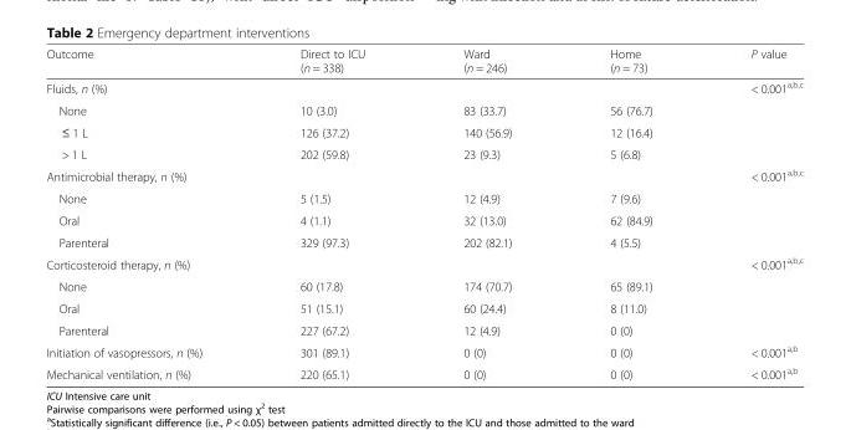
<table><thead><tr><td>Outcome</td><td>Direct to ICU (n = 338)</td><td>Ward (n = 246)</td><td>Home (n = 73)</td><td>P value</td></tr></thead><tbody><tr><td>Fluids, n (%)</td><td></td><td></td><td></td><td>&lt; 0.001<sup>a,b,c</sup></td></tr><tr><td>None</td><td>10 (3.0)</td><td>83 (33.7)</td><td>56 (76.7)</td><td></td></tr><tr><td>≤ 1 L</td><td>126 (37.2)</td><td>140 (56.9)</td><td>12 (16.4)</td><td></td></tr><tr><td>&gt; 1 L</td><td>202 (59.8)</td><td>23 (9.3)</td><td>5 (6.8)</td><td></td></tr><tr><td colspan="4">Antimicrobial therapy, n (%)</td><td>&lt; 0.001<sup>a,b,c</sup></td></tr><tr><td>None</td><td>5 (1.5)</td><td>12 (4.9)</td><td>7 (9.6)</td><td></td></tr><tr><td>Oral</td><td>4 (1.1)</td><td>32 (13.0)</td><td>62 (84.9)</td><td></td></tr><tr><td>Parenteral</td><td>329 (97.3)</td><td>202 (82.1)</td><td>4 (5.5)</td><td></td></tr><tr><td colspan="4">Corticosteroid therapy, n (%)</td><td>&lt; 0.001<sup>a,b,c</sup></td></tr><tr><td>None</td><td>60 (17.8)</td><td>174 (70.7)</td><td>65 (89.1)</td><td></td></tr><tr><td>Oral</td><td>51 (15.1)</td><td>60 (24.4)</td><td>8 (11.0)</td><td></td></tr><tr><td>Parenteral</td><td>227 (67.2)</td><td>12 (4.9)</td><td>0 (0)</td><td></td></tr><tr><td>Initiation of vasopressors, n (%)</td><td>301 (89.1)</td><td>0 (0)</td><td>0 (0)</td><td>&lt; 0.001<sup>a,b</sup></td></tr><tr><td>Mechanical ventilation, n (%)</td><td>220 (65.1)</td><td>0 (0)</td><td>0 (0)</td><td>&lt; 0.001<sup>a,b</sup></td></tr></tbody></table>